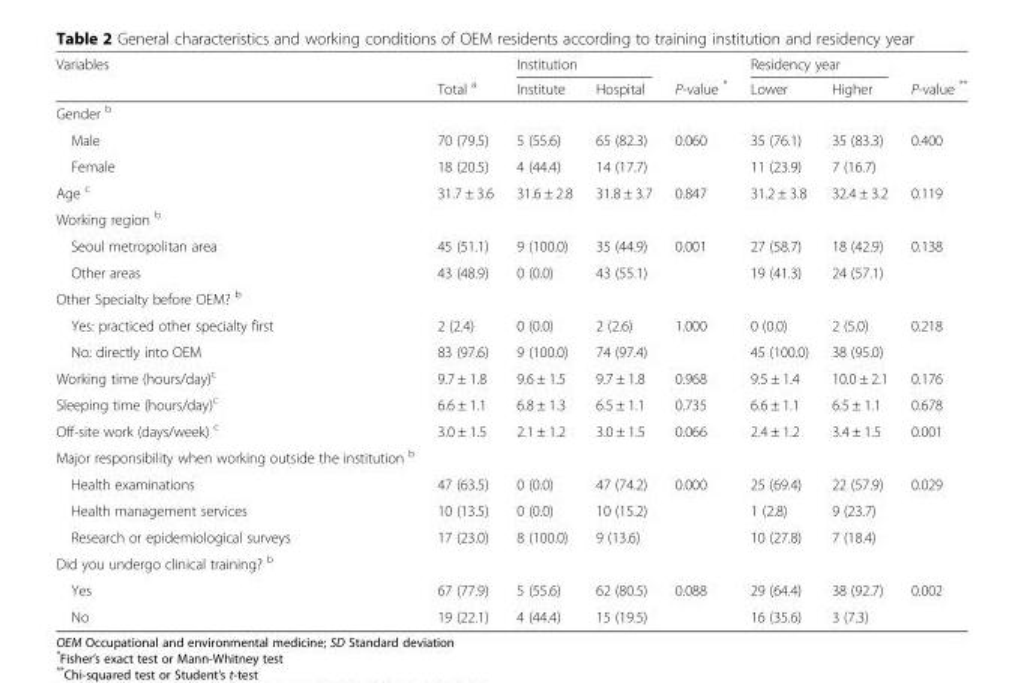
<table><thead><tr><td rowspan="2">Variables</td><td rowspan="2">Total <sup>a</sup></td><td colspan="2">Institution</td><td rowspan="2">P-value *</td><td colspan="2">Residency year</td><td rowspan="2">P-value **</td></tr><tr><td>Institute</td><td>Hospital</td><td>Lower</td><td>Higher</td></tr></thead><tbody><tr><td colspan="8">Gender <sup>b</sup></td></tr><tr><td>Male</td><td>70 (79.5)</td><td>5 (55.6)</td><td>65 (82.3)</td><td>0.060</td><td>35 (76.1)</td><td>35 (83.3)</td><td>0.400</td></tr><tr><td>Female</td><td>18 (20.5)</td><td>4 (44.4)</td><td>14 (17.7)</td><td></td><td>11 (23.9)</td><td>7 (16.7)</td><td></td></tr><tr><td>Age <sup>c</sup></td><td>31.7 ± 3.6</td><td>31.6 ± 2.8</td><td>31.8 ± 3.7</td><td>0.847</td><td>31.2 ± 3.8</td><td>32.4 ± 3.2</td><td>0.119</td></tr><tr><td colspan="8">Working region <sup>b</sup></td></tr><tr><td>Seoul metropolitan area</td><td>45 (51.1)</td><td>9 (100.0)</td><td>35 (44.9)</td><td>0.001</td><td>27 (58.7)</td><td>18 (42.9)</td><td>0.138</td></tr><tr><td>Other areas</td><td>43 (48.9)</td><td>0 (0.0)</td><td>43 (55.1)</td><td></td><td>19 (41.3)</td><td>24 (57.1)</td><td></td></tr><tr><td colspan="8">Other Specialty before OEM? <sup>b</sup></td></tr><tr><td>Yes: practiced other specialty first</td><td>2 (2.4)</td><td>0 (0.0)</td><td>2 (2.6)</td><td>1.000</td><td>0 (0.0)</td><td>2 (5.0)</td><td>0.218</td></tr><tr><td>No: directly into OEM</td><td>83 (97.6)</td><td>9 (100.0)</td><td>74 (97.4)</td><td></td><td>45 (100.0)</td><td>38 (95.0)</td><td></td></tr><tr><td>Working time (hours/day)<sup>c</sup></td><td>9.7 ± 1.8</td><td>9.6 ± 1.5</td><td>9.7 ± 1.8</td><td>0.968</td><td>9.5 ± 1.4</td><td>10.0 ± 2.1</td><td>0.176</td></tr><tr><td>Sleeping time (hours/day)<sup>c</sup></td><td>6.6 ± 1.1</td><td>6.8 ± 1.3</td><td>6.5 ± 1.1</td><td>0.735</td><td>6.6 ± 1.1</td><td>6.5 ± 1.1</td><td>0.678</td></tr><tr><td>Off-site work (days/week) <sup>c</sup></td><td>3.0 ± 1.5</td><td>2.1 ± 1.2</td><td>3.0 ± 1.5</td><td>0.066</td><td>2.4 ± 1.2</td><td>3.4 ± 1.5</td><td>0.001</td></tr><tr><td colspan="8">Major responsibility when working outside the institution <sup>b</sup></td></tr><tr><td>Health examinations</td><td>47 (63.5)</td><td>0 (0.0)</td><td>47 (74.2)</td><td>0.000</td><td>25 (69.4)</td><td>22 (57.9)</td><td rowspan="3">0.029</td></tr><tr><td>Health management services</td><td>10 (13.5)</td><td>0 (0.0)</td><td>10 (15.2)</td><td></td><td>1 (2.8)</td><td>9 (23.7)</td></tr><tr><td>Research or epidemiological surveys</td><td>17 (23.0)</td><td>8 (100.0)</td><td>9 (13.6)</td><td></td><td>10 (27.8)</td><td>7 (18.4)</td></tr><tr><td colspan="8">Did you undergo clinical training? <sup>b</sup></td></tr><tr><td>Yes</td><td>67 (77.9)</td><td>5 (55.6)</td><td>62 (80.5)</td><td>0.088</td><td>29 (64.4)</td><td>38 (92.7)</td><td rowspan="2">0.002</td></tr><tr><td>No</td><td>19 (22.1)</td><td>4 (44.4)</td><td>15 (19.5)</td><td></td><td>16 (35.6)</td><td>3 (7.3)</td></tr></tbody></table>